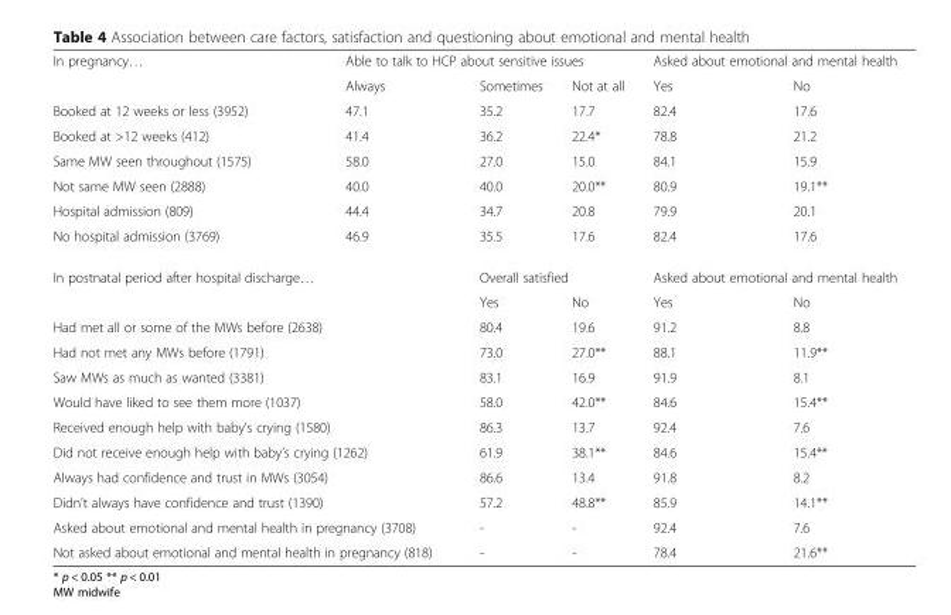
<table><tbody><tr><td rowspan="2">In pregnancy…</td><td colspan="3">Able to talk to HCP about sensitive issues</td><td colspan="2">Asked about emotional and mental health</td></tr><tr><td>Always</td><td>Sometimes</td><td>Not at all</td><td>Yes</td><td>No</td></tr><tr><td>Booked at 12 weeks or less (3952)</td><td>47.1</td><td>35.2</td><td>17.7</td><td>82.4</td><td>17.6</td></tr><tr><td>Booked at &gt;12 weeks (412)</td><td>41.4</td><td>36.2</td><td>22.4*</td><td>78.8</td><td>21.2</td></tr><tr><td>Same MW seen throughout (1575)</td><td>58.0</td><td>27.0</td><td>15.0</td><td>84.1</td><td>15.9</td></tr><tr><td>Not same MW seen (2888)</td><td>40.0</td><td>40.0</td><td>20.0**</td><td>80.9</td><td>19.1**</td></tr><tr><td>Hospital admission (809)</td><td>44.4</td><td>34.7</td><td>20.8</td><td>79.9</td><td>20.1</td></tr><tr><td>No hospital admission (3769)</td><td>46.9</td><td>35.5</td><td>17.6</td><td>82.4</td><td>17.6</td></tr><tr><td rowspan="2" colspan="2">In postnatal period after hospital discharge…</td><td colspan="2">Overall satisfied</td><td colspan="2">Asked about emotional and mental health</td></tr><tr><td>Yes</td><td>No</td><td>Yes</td><td>No</td></tr><tr><td colspan="2">Had met all or some of the MWs before (2638)</td><td>80.4</td><td>19.6</td><td>91.2</td><td>8.8</td></tr><tr><td colspan="2">Had not met any MWs before (1791)</td><td>73.0</td><td>27.0**</td><td>88.1</td><td>11.9**</td></tr><tr><td colspan="2">Saw MWs as much as wanted (3381)</td><td>83.1</td><td>16.9</td><td>91.9</td><td>8.1</td></tr><tr><td colspan="2">Would have liked to see them more (1037)</td><td>58.0</td><td>42.0**</td><td>84.6</td><td>15.4**</td></tr><tr><td colspan="2">Received enough help with baby’s crying (1580)</td><td>86.3</td><td>13.7</td><td>92.4</td><td>7.6</td></tr><tr><td colspan="2">Did not receive enough help with baby’s crying (1262)</td><td>61.9</td><td>38.1**</td><td>84.6</td><td>15.4**</td></tr><tr><td colspan="2">Always had confidence and trust in MWs (3054)</td><td>86.6</td><td>13.4</td><td>91.8</td><td>8.2</td></tr><tr><td colspan="2">Didn’t always have confidence and trust (1390)</td><td>57.2</td><td>48.8**</td><td>85.9</td><td>14.1**</td></tr><tr><td colspan="2">Asked about emotional and mental health in pregnancy (3708)</td><td>-</td><td>-</td><td>92.4</td><td>7.6</td></tr><tr><td colspan="2">Not asked about emotional and mental health in pregnancy (818)</td><td>-</td><td>-</td><td>78.4</td><td>21.6**</td></tr></tbody></table>